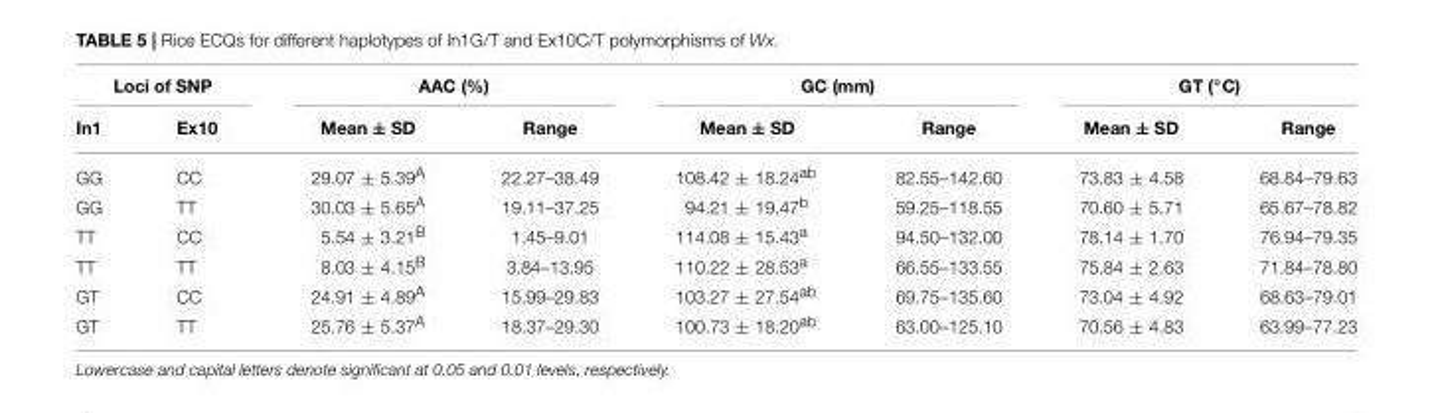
<table><thead><tr><td colspan="2">Loci of SNP</td><td colspan="2">AAC (%)</td><td colspan="2">GC (mm)</td><td colspan="2">GT (◦C)</td></tr><tr><td>In1</td><td>Ex10</td><td>Mean ± SD</td><td>Range</td><td>Mean ± SD</td><td>Range</td><td>Mean ± SD</td><td>Range</td></tr></thead><tbody><tr><td>GG</td><td>CC</td><td>29.07 ± 5.39<sup>A</sup></td><td>22.27–38.49</td><td>108.42 ± 18.24<sup>ab</sup></td><td>82.55–142.60</td><td>73.83 ± 4.58</td><td>68.84–79.63</td></tr><tr><td>GG</td><td>TT</td><td>30.03 ± 5.65<sup>A</sup></td><td>19.11–37.25</td><td>94.21 ± 19.47<sup>b</sup></td><td>59.25–118.55</td><td>70.60 ± 5.71</td><td>65.67–78.82</td></tr><tr><td>TT</td><td>CC</td><td>5.54 ± 3.21<sup>B</sup></td><td>1.45–9.01</td><td>114.08 ± 15.43<sup>a</sup></td><td>94.50–132.00</td><td>78.14 ± 1.70</td><td>76.94–79.35</td></tr><tr><td>TT</td><td>TT</td><td>8.03 ± 4.15<sup>B</sup></td><td>3.84–13.95</td><td>110.22 ± 28.53<sup>a</sup></td><td>66.55–133.55</td><td>75.84 ± 2.63</td><td>71.84–78.80</td></tr><tr><td>GT</td><td>CC</td><td>24.91 ± 4.89<sup>A</sup></td><td>15.99–29.83</td><td>103.27 ± 27.54<sup>ab</sup></td><td>69.75–135.60</td><td>73.04 ± 4.92</td><td>68.63–79.01</td></tr><tr><td>GT</td><td>TT</td><td>25.76 ± 5.37<sup>A</sup></td><td>18.37–29.30</td><td>100.73 ± 18.20<sup>ab</sup></td><td>63.00–125.10</td><td>70.56 ± 4.83</td><td>63.99–77.23</td></tr></tbody></table>